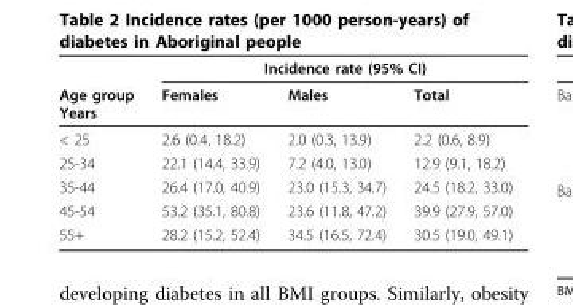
<table><thead><tr><td rowspan="2">Age group Years</td><td colspan="3">Incidence rate (95% CI)</td></tr><tr><td>Females</td><td>Males</td><td>Total</td></tr></thead><tbody><tr><td>&lt; 25</td><td>2.6 (0.4, 18.2)</td><td>2.0 (0.3, 13.9)</td><td>2.2 (0.6, 8.9)</td></tr><tr><td>25-34</td><td>22.1 (14.4, 33.9)</td><td>7.2 (4.0, 13.0)</td><td>12.9 (9.1, 18.2)</td></tr><tr><td>35-44</td><td>26.4 (17.0, 40.9)</td><td>23.0 (15.3, 34.7)</td><td>24.5 (18.2, 33.0)</td></tr><tr><td>45-54</td><td>53.2 (35.1, 80.8)</td><td>23.6 (11.8, 47.2)</td><td>39.9 (27.9, 57.0)</td></tr><tr><td>55+</td><td>28.2 (15.2, 52.4)</td><td>34.5 (16.5, 72.4)</td><td>30.5 (19.0, 49.1)</td></tr></tbody></table>